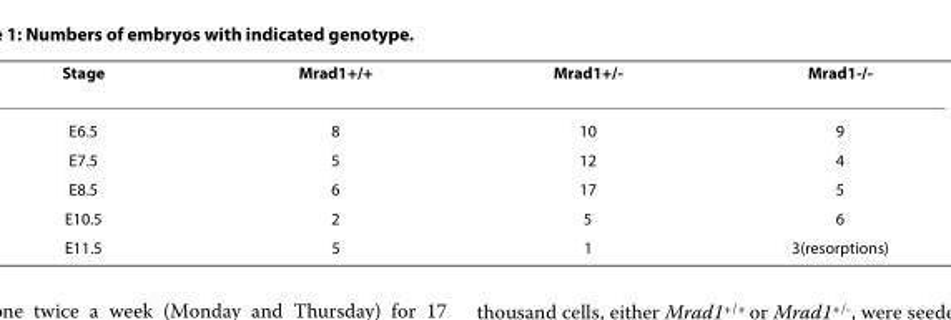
<table><thead><tr><td>Stage</td><td>Mrad1<sup>+/+</sup></td><td>Mrad1<sup>+/-</sup></td><td>Mrad1<sup>-/-</sup></td></tr></thead><tbody><tr><td>E6.5</td><td>8</td><td>10</td><td>9</td></tr><tr><td>E7.5</td><td>5</td><td>12</td><td>4</td></tr><tr><td>E8.5</td><td>6</td><td>17</td><td>5</td></tr><tr><td>E10.5</td><td>2</td><td>5</td><td>6</td></tr><tr><td>E11.5</td><td>5</td><td>1</td><td>3(resorptions)</td></tr></tbody></table>